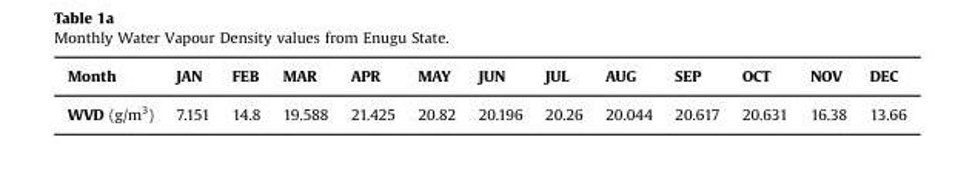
<table><thead><tr><td>Month</td><td>JAN</td><td>FEB</td><td>MAR</td><td>APR</td><td>MAY</td><td>JUN</td><td>JUL</td><td>AUG</td><td>SEP</td><td>OCT</td><td>NOV</td><td>DEC</td></tr></thead><tbody><tr><td>WVD (g/m<sup>3</sup>)</td><td>7.151</td><td>14.8</td><td>19.588</td><td>21.425</td><td>20.82</td><td>20.196</td><td>20.26</td><td>20.044</td><td>20.617</td><td>20.631</td><td>16.38</td><td>13.66</td></tr></tbody></table>